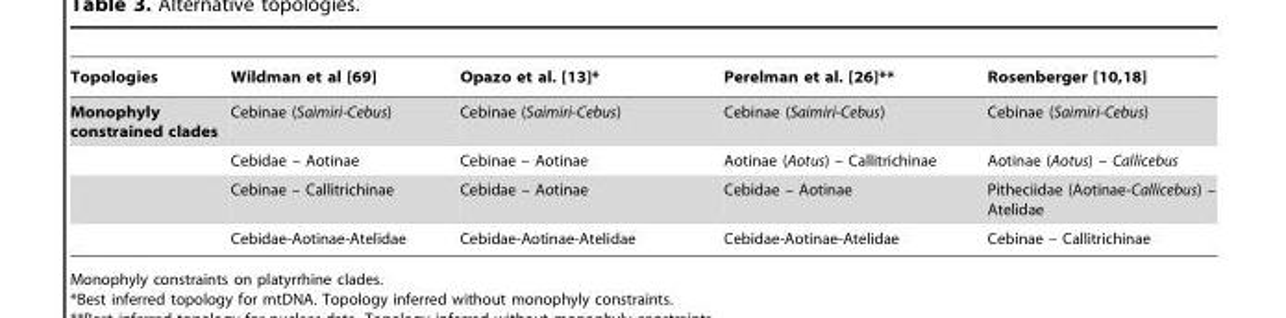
<table><thead><tr><td>Topologies</td><td>Wildman et al [69]</td><td>Opazo et al. [13]*</td><td>Perelman et al. [26]**</td><td>Rosenberger [10,18]</td></tr></thead><tbody><tr><td rowspan="4">Monophyly constrained clades</td><td>Cebinae (Saimiri-Cebus)</td><td>Cebinae (Saimiri-Cebus)</td><td>Cebinae (Saimiri-Cebus)</td><td>Cebinae (Saimiri-Cebus)</td></tr><tr><td>Cebidae – Aotinae</td><td>Cebinae – Aotinae</td><td>Aotinae (Aotus) – Callitrichinae</td><td>Aotinae (Aotus) – Callicebus</td></tr><tr><td>Cebinae – Callitrichinae</td><td>Cebidae – Aotinae</td><td>Cebidae – Aotinae</td><td>Pitheciidae (Aotinae-Callicebus) – Atelidae</td></tr><tr><td>Cebidae-Aotinae-Atelidae</td><td>Cebidae-Aotinae-Atelidae</td><td>Cebidae-Aotinae-Atelidae</td><td>Cebinae – Callitrichinae</td></tr></tbody></table>